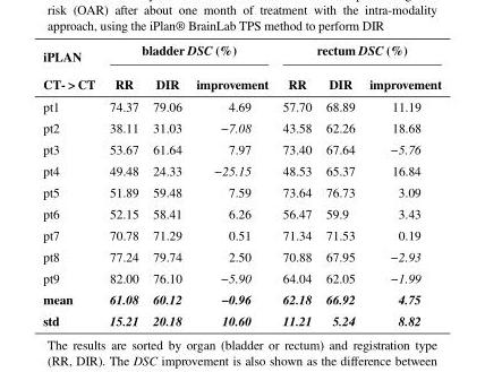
<table><thead><tr><td rowspan="2">iPLAN CT- &gt; CT</td><td colspan="3">bladder DSC (%)</td><td colspan="3">rectum DSC (%)</td></tr><tr><td>RR</td><td>DIR</td><td>improvement</td><td>RR</td><td>DIR</td><td>improvement</td></tr></thead><tbody><tr><td>pt1</td><td>74.37</td><td>79.06</td><td>4.69</td><td>57.70</td><td>68.89</td><td>11.19</td></tr><tr><td>pt2</td><td>38.11</td><td>31.03</td><td>−7.08</td><td>43.58</td><td>62.26</td><td>18.68</td></tr><tr><td>pt3</td><td>53.67</td><td>61.64</td><td>7.97</td><td>73.40</td><td>67.64</td><td>−5.76</td></tr><tr><td>pt4</td><td>49.48</td><td>24.33</td><td>−25.15</td><td>48.53</td><td>65.37</td><td>16.84</td></tr><tr><td>pt5</td><td>51.89</td><td>59.48</td><td>7.59</td><td>73.64</td><td>76.73</td><td>3.09</td></tr><tr><td>pt6</td><td>52.15</td><td>58.41</td><td>6.26</td><td>56.47</td><td>59.9</td><td>3.43</td></tr><tr><td>pt7</td><td>70.78</td><td>71.29</td><td>0.51</td><td>71.34</td><td>71.53</td><td>0.19</td></tr><tr><td>pt8</td><td>77.24</td><td>79.74</td><td>2.50</td><td>70.88</td><td>67.95</td><td>−2.93</td></tr><tr><td>pt9</td><td>82.00</td><td>76.10</td><td>−5.90</td><td>64.04</td><td>62.05</td><td>−1.99</td></tr><tr><td>mean</td><td>61.08</td><td>60.12</td><td>−0.96</td><td>62.18</td><td>66.92</td><td>4.75</td></tr><tr><td>std</td><td>15.21</td><td>20.18</td><td>10.60</td><td>11.21</td><td>5.24</td><td>8.82</td></tr></tbody></table>